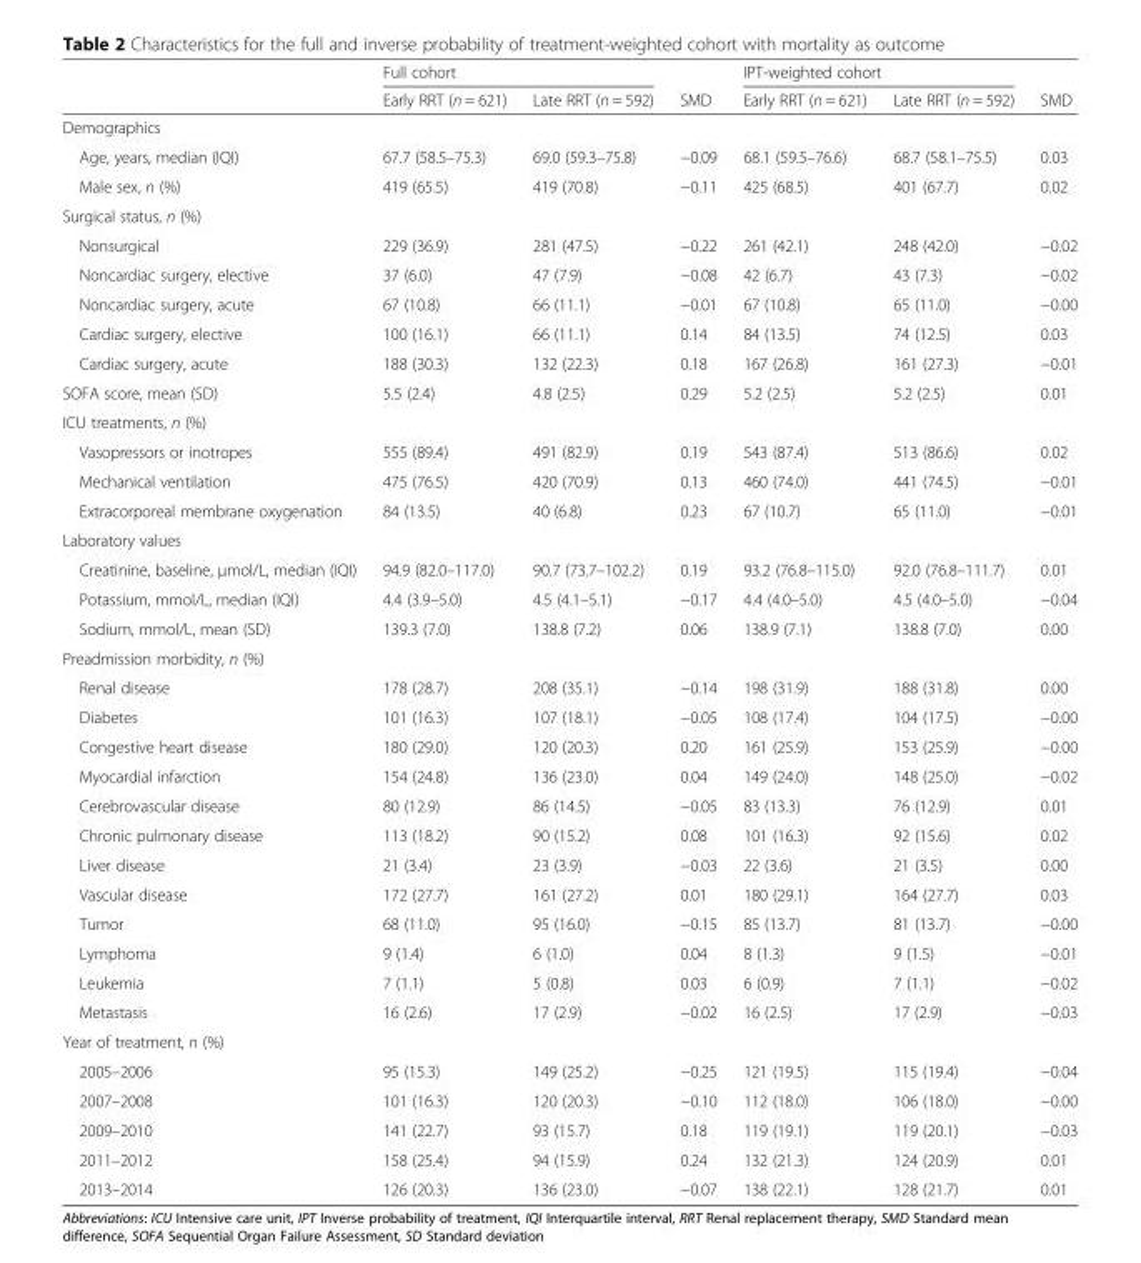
<table><thead><tr><td rowspan="2"></td><td colspan="2">Full cohort</td><td rowspan="2">SMD</td><td colspan="2">IPT-weighted cohort</td><td rowspan="2">SMD</td></tr><tr><td>Early RRT (n = 621)</td><td>Late RRT (n = 592)</td><td>Early RRT (n = 621)</td><td>Late RRT (n = 592)</td></tr></thead><tbody><tr><td colspan="7">Demographics</td></tr><tr><td>Age, years, median (IQI)</td><td>67.7 (58.5–75.3)</td><td>69.0 (59.3–75.8)</td><td>−0.09</td><td>68.1 (59.5–76.6)</td><td>68.7 (58.1–75.5)</td><td>0.03</td></tr><tr><td>Male sex, n (%)</td><td>419 (65.5)</td><td>419 (70.8)</td><td>−0.11</td><td>425 (68.5)</td><td>401 (67.7)</td><td>0.02</td></tr><tr><td colspan="7">Surgical status, n (%)</td></tr><tr><td>Nonsurgical</td><td>229 (36.9)</td><td>281 (47.5)</td><td>−0.22</td><td>261 (42.1)</td><td>248 (42.0)</td><td>−0.02</td></tr><tr><td>Noncardiac surgery, elective</td><td>37 (6.0)</td><td>47 (7.9)</td><td>−0.08</td><td>42 (6.7)</td><td>43 (7.3)</td><td>−0.02</td></tr><tr><td>Noncardiac surgery, acute</td><td>67 (10.8)</td><td>66 (11.1)</td><td>−0.01</td><td>67 (10.8)</td><td>65 (11.0)</td><td>−0.00</td></tr><tr><td>Cardiac surgery, elective</td><td>100 (16.1)</td><td>66 (11.1)</td><td>0.14</td><td>84 (13.5)</td><td>74 (12.5)</td><td>0.03</td></tr><tr><td>Cardiac surgery, acute</td><td>188 (30.3)</td><td>132 (22.3)</td><td>0.18</td><td>167 (26.8)</td><td>161 (27.3)</td><td>−0.01</td></tr><tr><td>SOFA score, mean (SD)</td><td>5.5 (2.4)</td><td>4.8 (2.5)</td><td>0.29</td><td>5.2 (2.5)</td><td>5.2 (2.5)</td><td>0.01</td></tr><tr><td colspan="7">ICU treatments, n (%)</td></tr><tr><td>Vasopressors or inotropes</td><td>555 (89.4)</td><td>491 (82.9)</td><td>0.19</td><td>543 (87.4)</td><td>513 (86.6)</td><td>0.02</td></tr><tr><td>Mechanical ventilation</td><td>475 (76.5)</td><td>420 (70.9)</td><td>0.13</td><td>460 (74.0)</td><td>441 (74.5)</td><td>−0.01</td></tr><tr><td>Extracorporeal membrane oxygenation</td><td>84 (13.5)</td><td>40 (6.8)</td><td>0.23</td><td>67 (10.7)</td><td>65 (11.0)</td><td>−0.01</td></tr><tr><td colspan="7">Laboratory values</td></tr><tr><td>Creatinine, baseline, μmol/L, median (IQI)</td><td>94.9 (82.0–117.0)</td><td>90.7 (73.7–102.2)</td><td>0.19</td><td>93.2 (76.8–115.0)</td><td>92.0 (76.8–111.7)</td><td>0.01</td></tr><tr><td>Potassium, mmol/L, median (IQI)</td><td>4.4 (3.9–5.0)</td><td>4.5 (4.1–5.1)</td><td>−0.17</td><td>4.4 (4.0–5.0)</td><td>4.5 (4.0–5.0)</td><td>−0.04</td></tr><tr><td>Sodium, mmol/L, mean (SD)</td><td>139.3 (7.0)</td><td>138.8 (7.2)</td><td>0.06</td><td>138.9 (7.1)</td><td>138.8 (7.0)</td><td>0.00</td></tr><tr><td colspan="7">Preadmission morbidity, n (%)</td></tr><tr><td>Renal disease</td><td>178 (28.7)</td><td>208 (35.1)</td><td>−0.14</td><td>198 (31.9)</td><td>188 (31.8)</td><td>0.00</td></tr><tr><td>Diabetes</td><td>101 (16.3)</td><td>107 (18.1)</td><td>−0.05</td><td>108 (17.4)</td><td>104 (17.5)</td><td>−0.00</td></tr><tr><td>Congestive heart disease</td><td>180 (29.0)</td><td>120 (20.3)</td><td>0.20</td><td>161 (25.9)</td><td>153 (25.9)</td><td>−0.00</td></tr><tr><td>Myocardial infarction</td><td>154 (24.8)</td><td>136 (23.0)</td><td>0.04</td><td>149 (24.0)</td><td>148 (25.0)</td><td>−0.02</td></tr><tr><td>Cerebrovascular disease</td><td>80 (12.9)</td><td>86 (14.5)</td><td>−0.05</td><td>83 (13.3)</td><td>76 (12.9)</td><td>0.01</td></tr><tr><td>Chronic pulmonary disease</td><td>113 (18.2)</td><td>90 (15.2)</td><td>0.08</td><td>101 (16.3)</td><td>92 (15.6)</td><td>0.02</td></tr><tr><td>Liver disease</td><td>21 (3.4)</td><td>23 (3.9)</td><td>−0.03</td><td>22 (3.6)</td><td>21 (3.5)</td><td>0.00</td></tr><tr><td>Vascular disease</td><td>172 (27.7)</td><td>161 (27.2)</td><td>0.01</td><td>180 (29.1)</td><td>164 (27.7)</td><td>0.03</td></tr><tr><td>Tumor</td><td>68 (11.0)</td><td>95 (16.0)</td><td>−0.15</td><td>85 (13.7)</td><td>81 (13.7)</td><td>−0.00</td></tr><tr><td>Lymphoma</td><td>9 (1.4)</td><td>6 (1.0)</td><td>0.04</td><td>8 (1.3)</td><td>9 (1.5)</td><td>−0.01</td></tr><tr><td>Leukemia</td><td>7 (1.1)</td><td>5 (0.8)</td><td>0.03</td><td>6 (0.9)</td><td>7 (1.1)</td><td>−0.02</td></tr><tr><td>Metastasis</td><td>16 (2.6)</td><td>17 (2.9)</td><td>−0.02</td><td>16 (2.5)</td><td>17 (2.9)</td><td>−0.03</td></tr><tr><td colspan="7">Year of treatment, n (%)</td></tr><tr><td>2005–2006</td><td>95 (15.3)</td><td>149 (25.2)</td><td>−0.25</td><td>121 (19.5)</td><td>115 (19.4)</td><td>−0.04</td></tr><tr><td>2007–2008</td><td>101 (16.3)</td><td>120 (20.3)</td><td>−0.10</td><td>112 (18.0)</td><td>106 (18.0)</td><td>−0.00</td></tr><tr><td>2009–2010</td><td>141 (22.7)</td><td>93 (15.7)</td><td>0.18</td><td>119 (19.1)</td><td>119 (20.1)</td><td>−0.03</td></tr><tr><td>2011–2012</td><td>158 (25.4)</td><td>94 (15.9)</td><td>0.24</td><td>132 (21.3)</td><td>124 (20.9)</td><td>0.01</td></tr><tr><td>2013–2014</td><td>126 (20.3)</td><td>136 (23.0)</td><td>−0.07</td><td>138 (22.1)</td><td>128 (21.7)</td><td>0.01</td></tr></tbody></table>